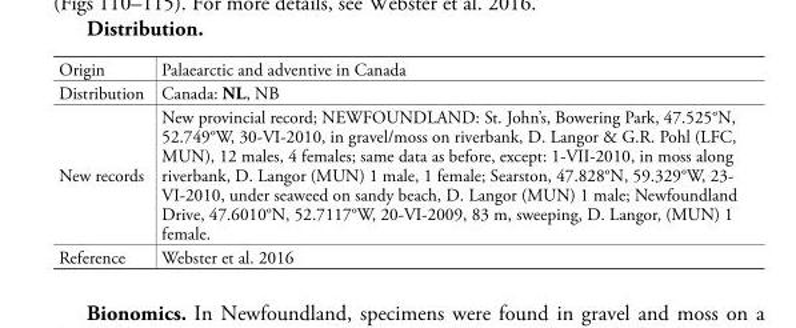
<table><tbody><tr><td>Origin</td><td>Palaearctic and adventive in Canada</td></tr><tr><td>Distribution</td><td>Canada: NL, NB</td></tr><tr><td>New records</td><td>New provincial record; NEWFOUNDLAND: St. John’s, Bowering Park, 47.525°N, 52.749°W, 30-VI-2010, in gravel/moss on riverbank, D. Langor &amp; G.R. Pohl (LFC, MUN), 12 males, 4 females; same data as before, except: 1-VII-2010, in moss along riverbank, D. Langor (MUN) 1 male, 1 female; Searston, 47.828°N, 59.329°W, 23- VI-2010, under seaweed on sandy beach, D. Langor (MUN) 1 male; Newfoundland Drive, 47.6010°N, 52.7117°W, 20-VI-2009, 83 m, sweeping, D. Langor, (MUN) 1 female.</td></tr><tr><td>Reference</td><td>Webster et al. 2016</td></tr></tbody></table>